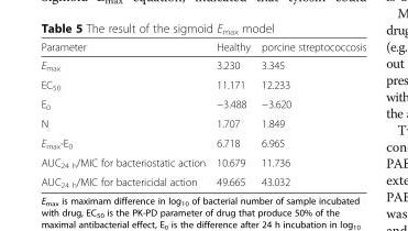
<table><thead><tr><td>Parameter</td><td>Healthy</td><td>porcine streptococcosis</td></tr></thead><tbody><tr><td>E<sub>max</sub></td><td>3.230</td><td>3.345</td></tr><tr><td>EC<sub>50</sub></td><td>11.171</td><td>12.233</td></tr><tr><td>E<sub>0</sub></td><td>−3.488</td><td>−3.620</td></tr><tr><td>N</td><td>1.707</td><td>1.849</td></tr><tr><td>E<sub>max</sub>-E<sub>0</sub></td><td>6.718</td><td>6.965</td></tr><tr><td>AUC<sub>24 h</sub>/MIC for bacteriostatic action</td><td>10.679</td><td>11.736</td></tr><tr><td>AUC<sub>24 h</sub>/MIC for bactericidal action</td><td>49.665</td><td>43.032</td></tr></tbody></table>